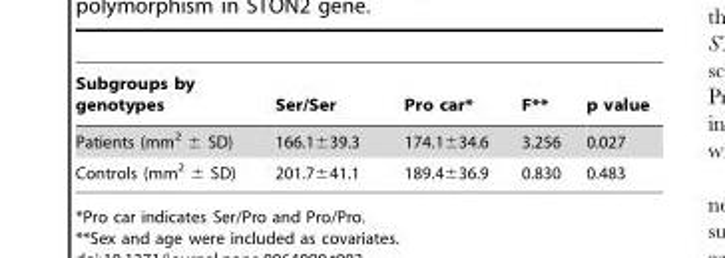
<table><thead><tr><td>Subgroups by genotypes</td><td>Ser/Ser</td><td>Pro car*</td><td>F**</td><td>p value</td></tr></thead><tbody><tr><td>Patients (mm<sup>2</sup> ± SD)</td><td>166.1±39.3</td><td>174.1±34.6</td><td>3.256</td><td>0.027</td></tr><tr><td>Controls (mm<sup>2</sup> ± SD)</td><td>201.7±41.1</td><td>189.4±36.9</td><td>0.830</td><td>0.483</td></tr></tbody></table>